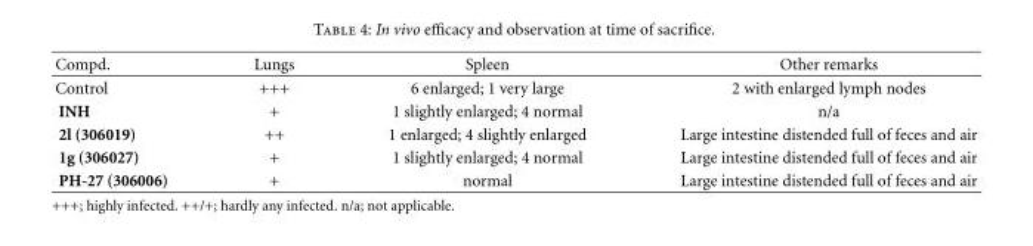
<table><thead><tr><td>Compd.</td><td>Lungs</td><td>Spleen</td><td>Other remarks</td></tr></thead><tbody><tr><td>Control</td><td>+++</td><td>6 enlarged; 1 very large</td><td>2 with enlarged lymph nodes</td></tr><tr><td>INH</td><td>+</td><td>1 slightly enlarged; 4 normal</td><td>n/a</td></tr><tr><td>2l (306019)</td><td>++</td><td>1 enlarged; 4 slightly enlarged</td><td>Large intestine distended full of feces and air</td></tr><tr><td>1g (306027)</td><td>+</td><td>1 slightly enlarged; 4 normal</td><td>Large intestine distended full of feces and air</td></tr><tr><td>PH-27 (306006)</td><td>+</td><td>normal</td><td>Large intestine distended full of feces and air</td></tr></tbody></table>